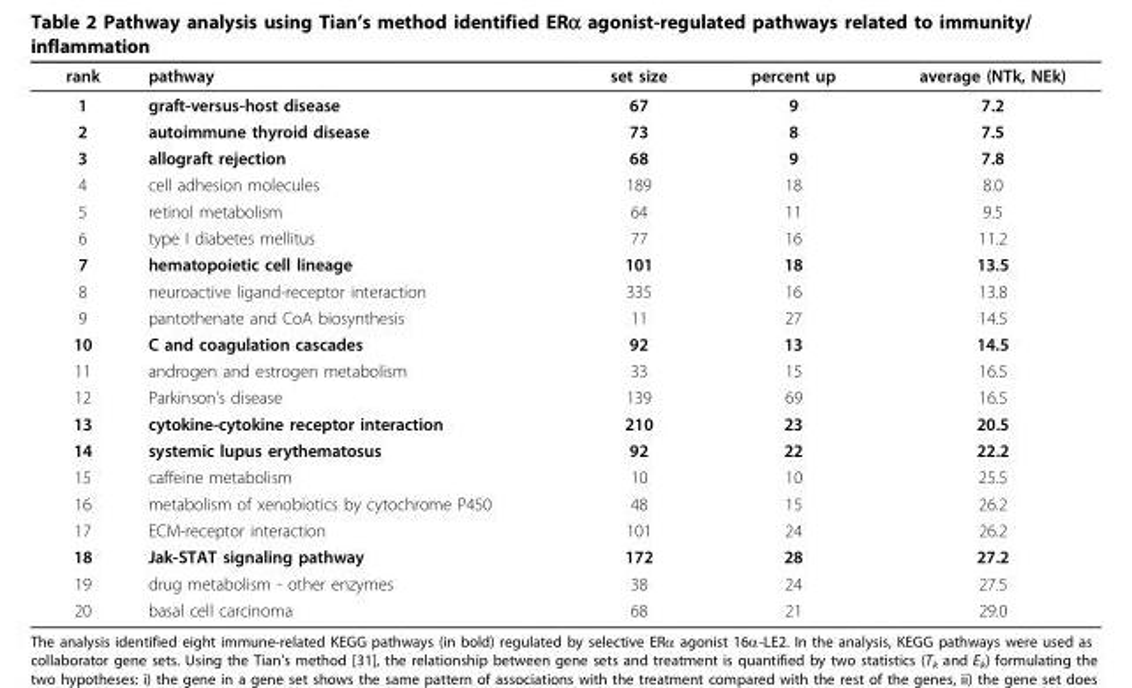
<table><thead><tr><td>rank</td><td>pathway</td><td>set size</td><td>percent up</td><td>average (NTk, NEk)</td></tr></thead><tbody><tr><td>1</td><td>graft-versus-host disease</td><td>67</td><td>9</td><td>7.2</td></tr><tr><td>2</td><td>autoimmune thyroid disease</td><td>73</td><td>8</td><td>7.5</td></tr><tr><td>3</td><td>allograft rejection</td><td>68</td><td>9</td><td>7.8</td></tr><tr><td>4</td><td>cell adhesion molecules</td><td>189</td><td>18</td><td>8.0</td></tr><tr><td>5</td><td>retinol metabolism</td><td>64</td><td>11</td><td>9.5</td></tr><tr><td>6</td><td>type I diabetes mellitus</td><td>77</td><td>16</td><td>11.2</td></tr><tr><td>7</td><td>hematopoietic cell lineage</td><td>101</td><td>18</td><td>13.5</td></tr><tr><td>8</td><td>neuroactive ligand-receptor interaction</td><td>335</td><td>16</td><td>13.8</td></tr><tr><td>9</td><td>pantothenate and CoA biosynthesis</td><td>11</td><td>27</td><td>14.5</td></tr><tr><td>10</td><td>C and coagulation cascades</td><td>92</td><td>13</td><td>14.5</td></tr><tr><td>11</td><td>androgen and estrogen metabolism</td><td>33</td><td>15</td><td>16.5</td></tr><tr><td>12</td><td>Parkinson’s disease</td><td>139</td><td>69</td><td>16.5</td></tr><tr><td>13</td><td>cytokine-cytokine receptor interaction</td><td>210</td><td>23</td><td>20.5</td></tr><tr><td>14</td><td>systemic lupus erythematosus</td><td>92</td><td>22</td><td>22.2</td></tr><tr><td>15</td><td>caffeine metabolism</td><td>10</td><td>10</td><td>25.5</td></tr><tr><td>16</td><td>metabolism of xenobiotics by cytochrome P450</td><td>48</td><td>15</td><td>26.2</td></tr><tr><td>17</td><td>ECM-receptor interaction</td><td>101</td><td>24</td><td>26.2</td></tr><tr><td>18</td><td>Jak-STAT signaling pathway</td><td>172</td><td>28</td><td>27.2</td></tr><tr><td>19</td><td>drug metabolism - other enzymes</td><td>38</td><td>24</td><td>27.5</td></tr><tr><td>20</td><td>basal cell carcinoma</td><td>68</td><td>21</td><td>29.0</td></tr></tbody></table>